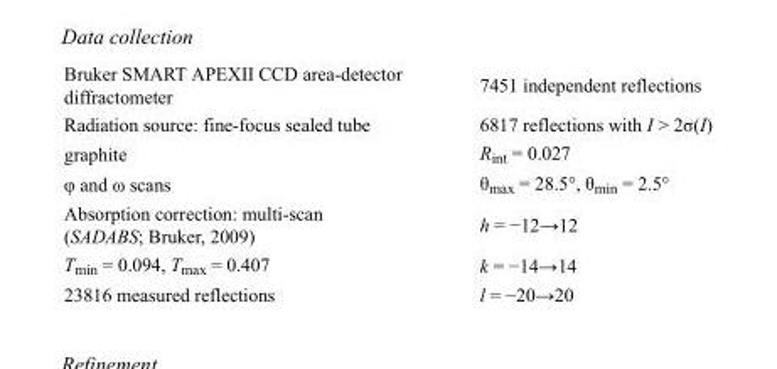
<table><tbody><tr><td>Bruker SMART APEXII CCD area-detector diffractometer</td><td>7451 independent reflections</td></tr><tr><td>Radiation source: fine-focus sealed tube</td><td>6817 reflections with I &gt; 2σ(I)</td></tr><tr><td>graphite</td><td>R<sub>int</sub> = 0.027</td></tr><tr><td>φ and ω scans</td><td>θ<sub>max</sub> = 28.5°, θ<sub>min</sub> = 2.5°</td></tr><tr><td>Absorption correction: multi-scan (SADABS; Bruker, 2009)</td><td>h = −12→12</td></tr><tr><td>T<sub>min</sub> = 0.094, T<sub>max</sub> = 0.407</td><td>k = −14→14</td></tr><tr><td>23816 measured reflections</td><td>l = −20→20</td></tr></tbody></table>